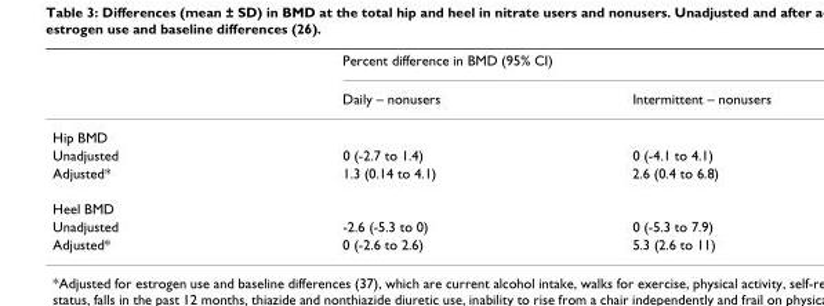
<table><thead><tr><td rowspan="2"></td><td colspan="2">Percent difference in BMD (95% CI)</td></tr><tr><td>Daily – nonusers</td><td>Intermittent – nonusers</td></tr></thead><tbody><tr><td colspan="3">Hip BMD</td></tr><tr><td>Unadjusted</td><td>0 (-2.7 to 1.4)</td><td>0 (-4.1 to 4.1)</td></tr><tr><td>Adjusted*</td><td>1.3 (0.14 to 4.1)</td><td>2.6 (0.4 to 6.8)</td></tr><tr><td colspan="3">Heel BMD</td></tr><tr><td>Unadjusted</td><td>-2.6 (-5.3 to 0)</td><td>0 (-5.3 to 7.9)</td></tr><tr><td>Adjusted*</td><td>0 (-2.6 to 2.6)</td><td>5.3 (2.6 to 11)</td></tr></tbody></table>